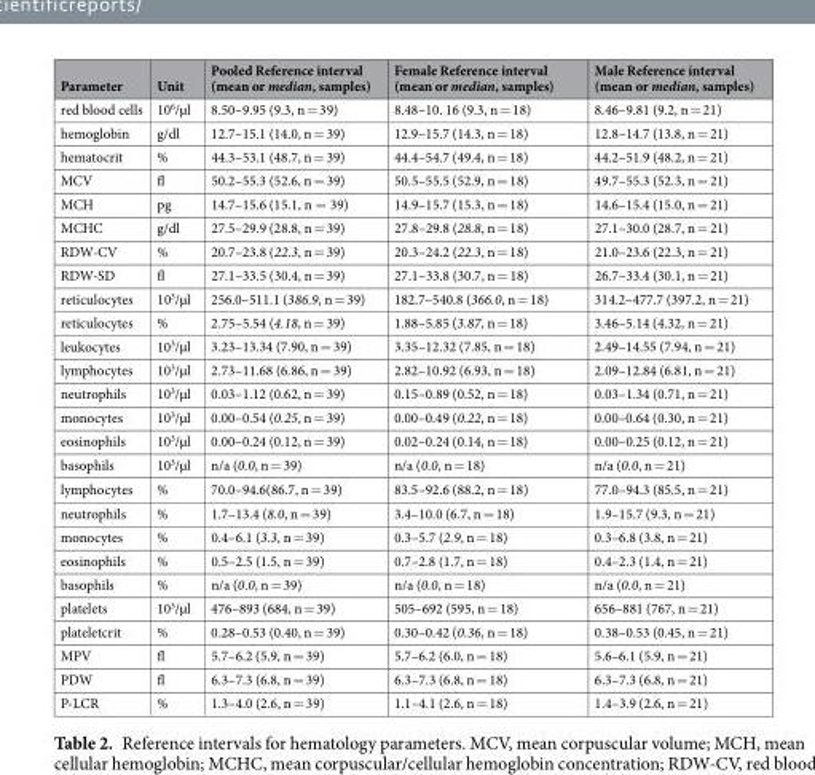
<table><thead><tr><td>Parameter</td><td>Unit</td><td>Pooled Reference interval (mean or median, samples)</td><td>Female Reference interval (mean or median, samples)</td><td>Male Reference interval (mean or median, samples)</td></tr></thead><tbody><tr><td>red blood cells</td><td>10<sup>6</sup>/µl</td><td>8.50–9.95 (9.3, n = 39)</td><td>8.48–10. 16 (9.3, n = 18)</td><td>8.46–9.81 (9.2, n = 21)</td></tr><tr><td>hemoglobin</td><td>g/dl</td><td>12.7–15.1 (14.0, n = 39)</td><td>12.9–15.7 (14.3, n = 18)</td><td>12.8–14.7 (13.8, n = 21)</td></tr><tr><td>hematocrit</td><td>%</td><td>44.3–53.1 (48.7, n = 39)</td><td>44.4–54.7 (49.4, n = 18)</td><td>44.2–51.9 (48.2, n = 21)</td></tr><tr><td>MCV</td><td>fl</td><td>50.2–55.3 (52.6, n = 39)</td><td>50.5–55.5 (52.9, n = 18)</td><td>49.7–55.3 (52.3, n = 21)</td></tr><tr><td>MCH</td><td>pg</td><td>14.7–15.6 (15.1, n = 39)</td><td>14.9–15.7 (15.3, n = 18)</td><td>14.6–15.4 (15.0, n = 21)</td></tr><tr><td>MCHC</td><td>g/dl</td><td>27.5–29.9 (28.8, n = 39)</td><td>27.8–29.8 (28.8, n = 18)</td><td>27.1–30.0 (28.7, n = 21)</td></tr><tr><td>RDW-CV</td><td>%</td><td>20.7–23.8 (22.3, n = 39)</td><td>20.3–24.2 (22.3, n = 18)</td><td>21.0–23.6 (22.3, n = 21)</td></tr><tr><td>RDW-SD</td><td>fl</td><td>27.1–33.5 (30.4, n = 39)</td><td>27.1–33.8 (30.7, n = 18)</td><td>26.7–33.4 (30.1, n = 21)</td></tr><tr><td>reticulocytes</td><td>10<sup>3</sup>/µl</td><td>256.0–511.1 (386.9, n = 39)</td><td>182.7–540.8 (366.0, n = 18)</td><td>314.2–477.7 (397.2, n = 21)</td></tr><tr><td>reticulocytes</td><td>%</td><td>2.75–5.54 (4.18, n = 39)</td><td>1.88–5.85 (3.87, n = 18)</td><td>3.46–5.14 (4.32, n = 21)</td></tr><tr><td>leukocytes</td><td>10<sup>3</sup>/µl</td><td>3.23–13.34 (7.90, n = 39)</td><td>3.35–12.32 (7.85, n = 18)</td><td>2.49–14.55 (7.94, n = 21)</td></tr><tr><td>lymphocytes</td><td>10<sup>3</sup>/µl</td><td>2.73–11.68 (6.86, n = 39)</td><td>2.82–10.92 (6.93, n = 18)</td><td>2.09–12.84 (6.81, n = 21)</td></tr><tr><td>neutrophils</td><td>10<sup>3</sup>/µl</td><td>0.03–1.12 (0.62, n = 39)</td><td>0.15–0.89 (0.52, n = 18)</td><td>0.03–1.34 (0.71, n = 21)</td></tr><tr><td>monocytes</td><td>10<sup>3</sup>/µl</td><td>0.00–0.54 (0.25, n = 39)</td><td>0.00–0.49 (0.22, n = 18)</td><td>0.00–0.64 (0.30, n = 21)</td></tr><tr><td>eosinophils</td><td>10<sup>3</sup>/µl</td><td>0.00–0.24 (0.12, n = 39)</td><td>0.02–0.24 (0.14, n = 18)</td><td>0.00–0.25 (0.12, n = 21)</td></tr><tr><td>basophils</td><td>10<sup>3</sup>/µl</td><td>n/a (0.0, n = 39)</td><td>n/a (0.0, n = 18)</td><td>n/a (0.0, n = 21)</td></tr><tr><td>lymphocytes</td><td>%</td><td>70.0–94.6(86.7, n = 39)</td><td>83.5–92.6 (88.2, n = 18)</td><td>77.0–94.3 (85.5, n = 21)</td></tr><tr><td>neutrophils</td><td>%</td><td>1.7–13.4 (8.0, n = 39)</td><td>3.4–10.0 (6.7, n = 18)</td><td>1.9–15.7 (9.3, n = 21)</td></tr><tr><td>monocytes</td><td>%</td><td>0.4–6.1 (3.3, n = 39)</td><td>0.3–5.7 (2.9, n = 18)</td><td>0.3–6.8 (3.8, n = 21)</td></tr><tr><td>eosinophils</td><td>%</td><td>0.5–2.5 (1.5, n = 39)</td><td>0.7–2.8 (1.7, n = 18)</td><td>0.4–2.3 (1.4, n = 21)</td></tr><tr><td>basophils</td><td>%</td><td>n/a (0.0, n = 39)</td><td>n/a (0.0, n = 18)</td><td>n/a (0.0, n = 21)</td></tr><tr><td>platelets</td><td>10<sup>3</sup>/µl</td><td>476–893 (684, n = 39)</td><td>505–692 (595, n = 18)</td><td>656–881 (767, n = 21)</td></tr><tr><td>plateletcrit</td><td>%</td><td>0.28–0.53 (0.40, n = 39)</td><td>0.30–0.42 (0.36, n = 18)</td><td>0.38–0.53 (0.45, n = 21)</td></tr><tr><td>MPV</td><td>fl</td><td>5.7–6.2 (5.9, n = 39)</td><td>5.7–6.2 (6.0, n = 18)</td><td>5.6–6.1 (5.9, n = 21)</td></tr><tr><td>PDW</td><td>fl</td><td>6.3–7.3 (6.8, n = 39)</td><td>6.3–7.3 (6.8, n = 18)</td><td>6.3–7.3 (6.8, n = 21)</td></tr><tr><td>P-LCR</td><td>%</td><td>1.3–4.0 (2.6, n = 39)</td><td>1.1–4.1 (2.6, n = 18)</td><td>1.4–3.9 (2.6, n = 21)</td></tr></tbody></table>